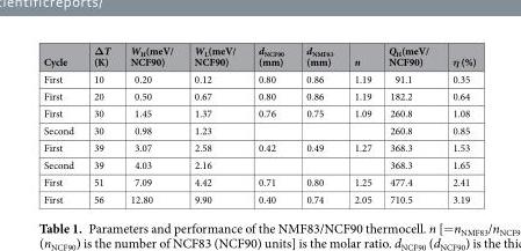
<table><thead><tr><td>Cycle</td><td>ΔT (K)</td><td>W<sub>H</sub>(meV/ NCF90)</td><td>W<sub>L</sub>(meV/ NCF90)</td><td>d<sub>NCF90</sub> (mm)</td><td>d<sub>NMF83</sub> (mm)</td><td>n</td><td>Q<sub>H</sub>(meV/ NCF90)</td><td>η (%)</td></tr></thead><tbody><tr><td>First</td><td>10</td><td>0.20</td><td>0.12</td><td>0.80</td><td>0.86</td><td>1.19</td><td>91.1</td><td>0.35</td></tr><tr><td>First</td><td>20</td><td>0.50</td><td>0.67</td><td>0.80</td><td>0.86</td><td>1.19</td><td>182.2</td><td>0.64</td></tr><tr><td>First</td><td>30</td><td>1.45</td><td>1.37</td><td>0.76</td><td>0.75</td><td>1.09</td><td>260.8</td><td>1.08</td></tr><tr><td>Second</td><td>30</td><td>0.98</td><td>1.23</td><td></td><td></td><td></td><td>260.8</td><td>0.85</td></tr><tr><td>First</td><td>39</td><td>3.07</td><td>2.58</td><td>0.42</td><td>0.49</td><td>1.27</td><td>368.3</td><td>1.53</td></tr><tr><td>Second</td><td>39</td><td>4.03</td><td>2.16</td><td></td><td></td><td></td><td>368.3</td><td>1.65</td></tr><tr><td>First</td><td>51</td><td>7.09</td><td>4.42</td><td>0.71</td><td>0.80</td><td>1.25</td><td>477.4</td><td>2.41</td></tr><tr><td>First</td><td>56</td><td>12.80</td><td>9.90</td><td>0.40</td><td>0.74</td><td>2.05</td><td>710.5</td><td>3.19</td></tr></tbody></table>